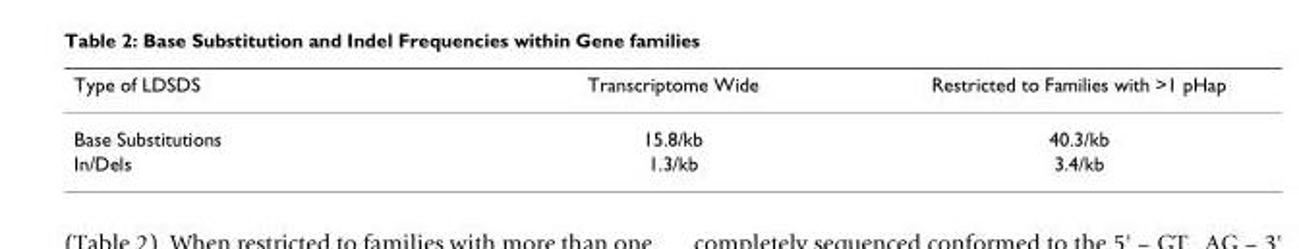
<table><thead><tr><td>Type of LDSDS</td><td>Transcriptome Wide</td><td>Restricted to Families with &gt;1 pHap</td></tr></thead><tbody><tr><td>Base Substitutions</td><td>15.8/kb</td><td>40.3/kb</td></tr><tr><td>In/Dels</td><td>1.3/kb</td><td>3.4/kb</td></tr></tbody></table>